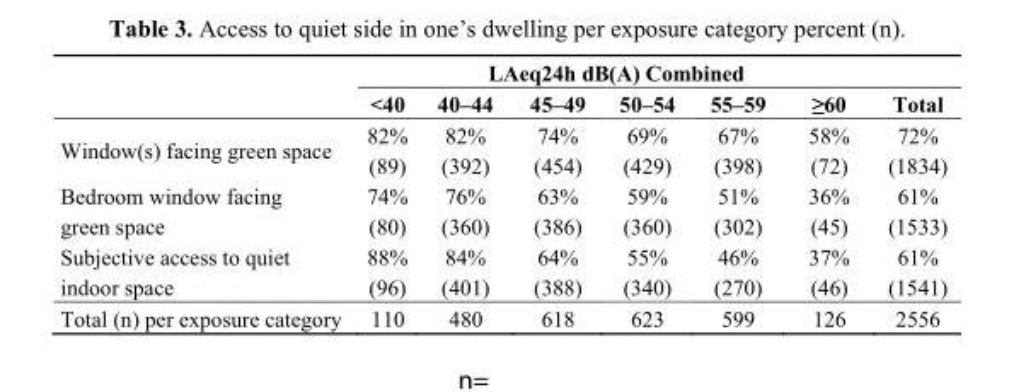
<table><thead><tr><td rowspan="2"></td><td colspan="6">LAeq24h dB(A) Combined</td><td rowspan="2">Total</td></tr><tr><td>&lt;40</td><td>40–44</td><td>45–49</td><td>50–54</td><td>55–59</td><td>≥60</td></tr></thead><tbody><tr><td>Window(s) facing green space</td><td>82% (89)</td><td>82% (392)</td><td>74% (454)</td><td>69% (429)</td><td>67% (398)</td><td>58% (72)</td><td>72% (1834)</td></tr><tr><td>Bedroom window facing green space</td><td>74% (80)</td><td>76% (360)</td><td>63% (386)</td><td>59% (360)</td><td>51% (302)</td><td>36% (45)</td><td>61% (1533)</td></tr><tr><td>Subjective access to quiet indoor space</td><td>88% (96)</td><td>84% (401)</td><td>64% (388)</td><td>55% (340)</td><td>46% (270)</td><td>37% (46)</td><td>61% (1541)</td></tr><tr><td>Total (n) per exposure category</td><td>110</td><td>480</td><td>618</td><td>623</td><td>599</td><td>126</td><td>2556</td></tr></tbody></table>